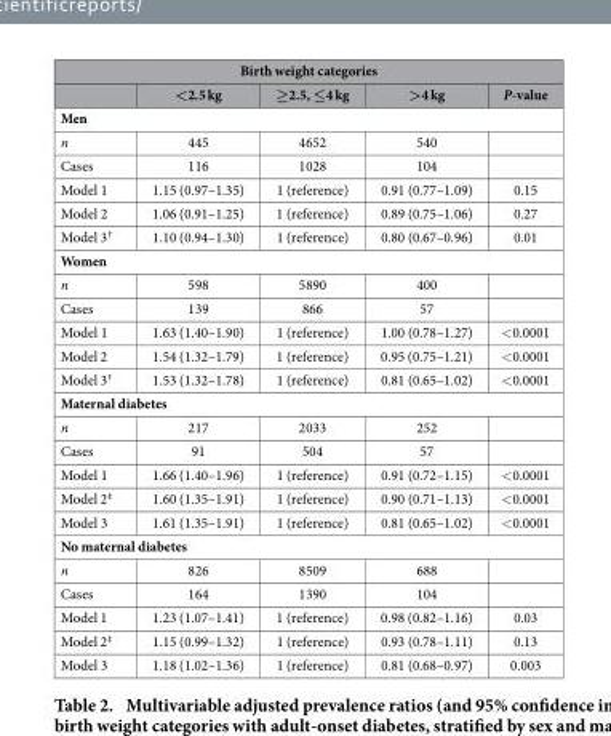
<table><thead><tr><td colspan="5">Birth weight categories</td></tr><tr><td></td><td>&lt;2.5 kg</td><td>≥2.5, ≤4 kg</td><td>&gt;4 kg</td><td>P-value</td></tr></thead><tbody><tr><td colspan="5">Men</td></tr><tr><td>n</td><td>445</td><td>4652</td><td>540</td><td></td></tr><tr><td>Cases</td><td>116</td><td>1028</td><td>104</td><td></td></tr><tr><td>Model 1</td><td>1.15 (0.97–1.35)</td><td>1 (reference)</td><td>0.91 (0.77–1.09)</td><td>0.15</td></tr><tr><td>Model 2</td><td>1.06 (0.91–1.25)</td><td>1 (reference)</td><td>0.89 (0.75–1.06)</td><td>0.27</td></tr><tr><td>Model 3<sup>†</sup></td><td>1.10 (0.94–1.30)</td><td>1 (reference)</td><td>0.80 (0.67–0.96)</td><td>0.01</td></tr><tr><td colspan="5">Women</td></tr><tr><td>n</td><td>598</td><td>5890</td><td>400</td><td></td></tr><tr><td>Cases</td><td>139</td><td>866</td><td>57</td><td></td></tr><tr><td>Model 1</td><td>1.63 (1.40–1.90)</td><td>1 (reference)</td><td>1.00 (0.78–1.27)</td><td>&lt; 0.0001</td></tr><tr><td>Model 2</td><td>1.54 (1.32–1.79)</td><td>1 (reference)</td><td>0.95 (0.75–1.21)</td><td>&lt; 0.0001</td></tr><tr><td>Model 3<sup>†</sup></td><td>1.53 (1.32–1.78)</td><td>1 (reference)</td><td>0.81 (0.65–1.02)</td><td>&lt; 0.0001</td></tr><tr><td colspan="5">Maternal diabetes</td></tr><tr><td>n</td><td>217</td><td>2033</td><td>252</td><td></td></tr><tr><td>Cases</td><td>91</td><td>504</td><td>57</td><td></td></tr><tr><td>Model 1</td><td>1.66 (1.40–1.96)</td><td>1 (reference)</td><td>0.91 (0.72–1.15)</td><td>&lt; 0.0001</td></tr><tr><td>Model 2<sup>‡</sup></td><td>1.60 (1.35–1.91)</td><td>1 (reference)</td><td>0.90 (0.71–1.13)</td><td>&lt; 0.0001</td></tr><tr><td>Model 3</td><td>1.61 (1.35–1.91)</td><td>1 (reference)</td><td>0.81 (0.65–1.02)</td><td>&lt; 0.0001</td></tr><tr><td colspan="5">No maternal diabetes</td></tr><tr><td>n</td><td>826</td><td>8509</td><td>688</td><td></td></tr><tr><td>Cases</td><td>164</td><td>1390</td><td>104</td><td></td></tr><tr><td>Model 1</td><td>1.23 (1.07–1.41)</td><td>1 (reference)</td><td>0.98 (0.82–1.16)</td><td>0.03</td></tr><tr><td>Model 2<sup>‡</sup></td><td>1.15 (0.99–1.32)</td><td>1 (reference)</td><td>0.93 (0.78–1.11)</td><td>0.13</td></tr><tr><td>Model 3</td><td>1.18 (1.02–1.36)</td><td>1 (reference)</td><td>0.81 (0.68–0.97)</td><td>0.003</td></tr></tbody></table>